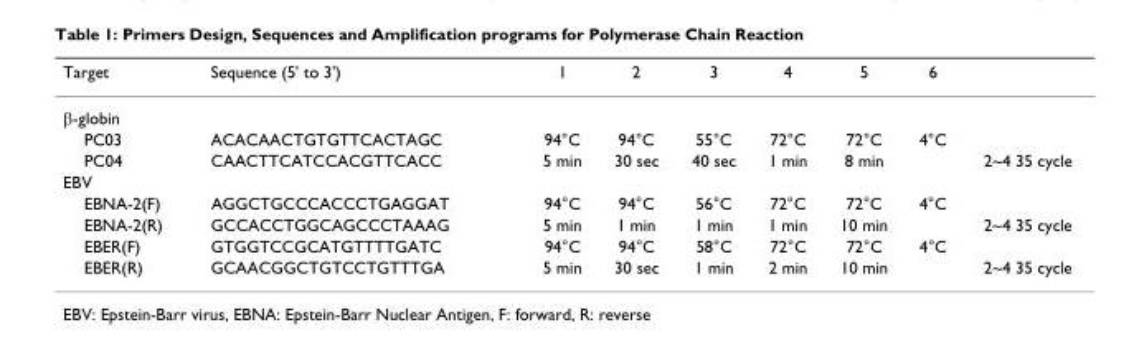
<table><thead><tr><td>Target</td><td>Sequence (5&#x27; to 3&#x27;)</td><td>1</td><td>2</td><td>3</td><td>4</td><td>5</td><td>6</td><td></td></tr></thead><tbody><tr><td colspan="9">β-globin</td></tr><tr><td>PC03</td><td>ACACAACTGTGTTCACTAGC</td><td>94°C</td><td>94°C</td><td>55°C</td><td>72°C</td><td>72°C</td><td>4°C</td><td></td></tr><tr><td>PC04</td><td>CAACTTCATCCACGTTCACC</td><td>5 min</td><td>30 sec</td><td>40 sec</td><td>1 min</td><td>8 min</td><td></td><td>2~4 35 cycle</td></tr><tr><td colspan="9">EBV</td></tr><tr><td>EBNA-2(F)</td><td>AGGCTGCCCACCCTGAGGAT</td><td>94°C</td><td>94°C</td><td>56°C</td><td>72°C</td><td>72°C</td><td>4°C</td><td></td></tr><tr><td>EBNA-2(R)</td><td>GCCACCTGGCAGCCCTAAAG</td><td>5 min</td><td>1 min</td><td>1 min</td><td>1 min</td><td>10 min</td><td></td><td>2~4 35 cycle</td></tr><tr><td>EBER(F)</td><td>GTGGTCCGCATGTTTTGATC</td><td>94°C</td><td>94°C</td><td>58°C</td><td>72°C</td><td>72°C</td><td>4°C</td><td></td></tr><tr><td>EBER(R)</td><td>GCAACGGCTGTCCTGTTTGA</td><td>5 min</td><td>30 sec</td><td>1 min</td><td>2 min</td><td>10 min</td><td></td><td>2~4 35 cycle</td></tr></tbody></table>